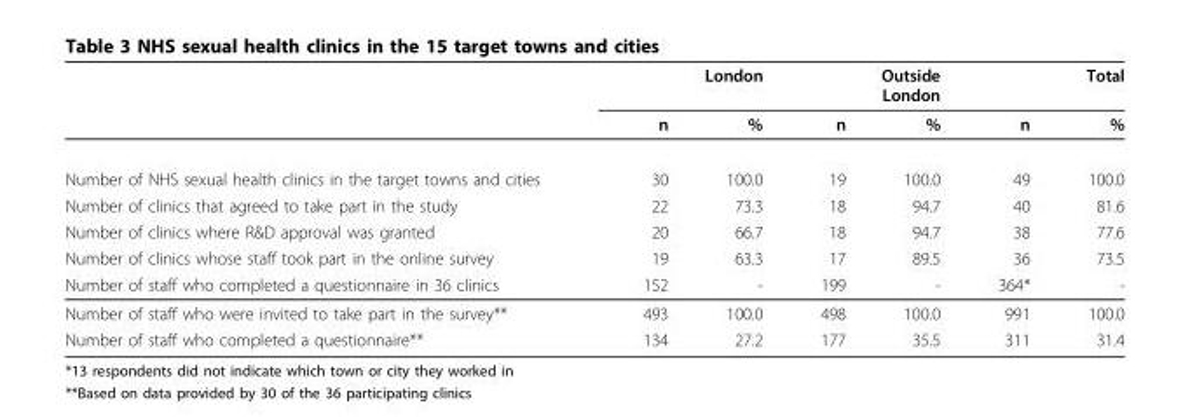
<table><thead><tr><td rowspan="2"></td><td colspan="2">London</td><td colspan="2">Outside London</td><td colspan="2">Total</td></tr><tr><td>n</td><td>%</td><td>n</td><td>%</td><td>n</td><td>%</td></tr></thead><tbody><tr><td>Number of NHS sexual health clinics in the target towns and cities</td><td>30</td><td>100.0</td><td>19</td><td>100.0</td><td>49</td><td>100.0</td></tr><tr><td>Number of clinics that agreed to take part in the study</td><td>22</td><td>73.3</td><td>18</td><td>94.7</td><td>40</td><td>81.6</td></tr><tr><td>Number of clinics where R&amp;D approval was granted</td><td>20</td><td>66.7</td><td>18</td><td>94.7</td><td>38</td><td>77.6</td></tr><tr><td>Number of clinics whose staff took part in the online survey</td><td>19</td><td>63.3</td><td>17</td><td>89.5</td><td>36</td><td>73.5</td></tr><tr><td>Number of staff who completed a questionnaire in 36 clinics</td><td>152</td><td>-</td><td>199</td><td>-</td><td>364*</td><td>-</td></tr><tr><td>Number of staff who were invited to take part in the survey**</td><td>493</td><td>100.0</td><td>498</td><td>100.0</td><td>991</td><td>100.0</td></tr><tr><td>Number of staff who completed a questionnaire**</td><td>134</td><td>27.2</td><td>177</td><td>35.5</td><td>311</td><td>31.4</td></tr></tbody></table>